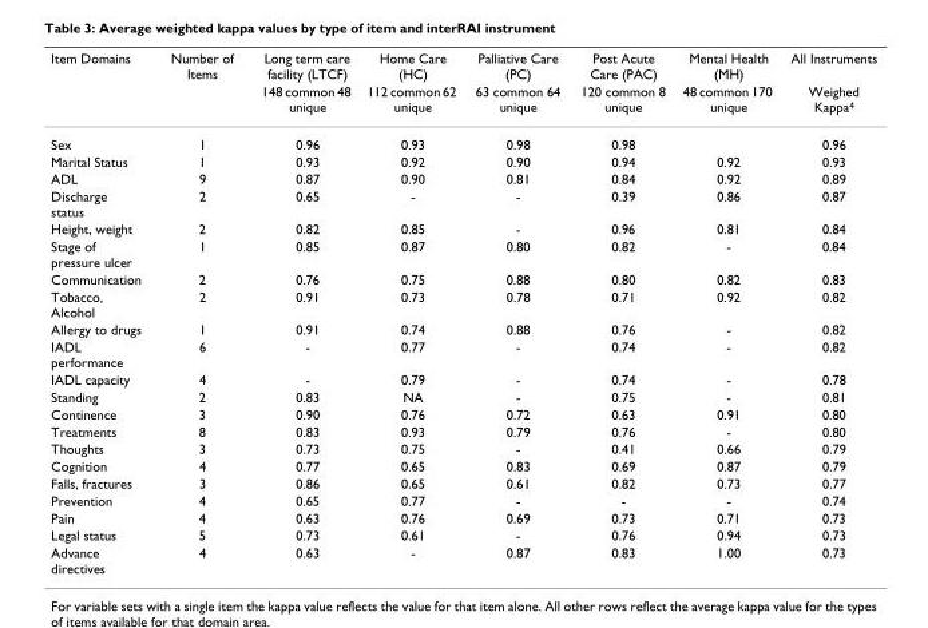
<table><thead><tr><td rowspan="2">Item Domains</td><td rowspan="2">Number of Items</td><td rowspan="2">Long term care facility (LTCF) 148 common 48 unique</td><td rowspan="2">Home Care (HC) 112 common 62 unique</td><td rowspan="2">Palliative Care (PC) 63 common 64 unique</td><td rowspan="2">Post Acute Care (PAC) 120 common 8 unique</td><td rowspan="2">Mental Health (MH) 48 common 170 unique</td><td rowspan="2">All Instruments Weighed Kappa<sup>4</sup></td></tr><tr></tr></thead><tbody><tr><td>Sex</td><td>1</td><td>0.96</td><td>0.93</td><td>0.98</td><td>0.98</td><td></td><td>0.96</td></tr><tr><td>Marital Status</td><td>1</td><td>0.93</td><td>0.92</td><td>0.90</td><td>0.94</td><td>0.92</td><td>0.93</td></tr><tr><td>ADL</td><td>9</td><td>0.87</td><td>0.90</td><td>0.81</td><td>0.84</td><td>0.92</td><td>0.89</td></tr><tr><td>Discharge status</td><td>2</td><td>0.65</td><td>-</td><td>-</td><td>0.39</td><td>0.86</td><td>0.87</td></tr><tr><td>Height, weight</td><td>2</td><td>0.82</td><td>0.85</td><td>-</td><td>0.96</td><td>0.81</td><td>0.84</td></tr><tr><td>Stage of pressure ulcer</td><td>1</td><td>0.85</td><td>0.87</td><td>0.80</td><td>0.82</td><td>-</td><td>0.84</td></tr><tr><td>Communication</td><td>2</td><td>0.76</td><td>0.75</td><td>0.88</td><td>0.80</td><td>0.82</td><td>0.83</td></tr><tr><td>Tobacco, Alcohol</td><td>2</td><td>0.91</td><td>0.73</td><td>0.78</td><td>0.71</td><td>0.92</td><td>0.82</td></tr><tr><td>Allergy to drugs</td><td>1</td><td>0.91</td><td>0.74</td><td>0.88</td><td>0.76</td><td>-</td><td>0.82</td></tr><tr><td>IADL performance</td><td>6</td><td>-</td><td>0.77</td><td>-</td><td>0.74</td><td>-</td><td>0.82</td></tr><tr><td>IADL capacity</td><td>4</td><td>-</td><td>0.79</td><td>-</td><td>0.74</td><td>-</td><td>0.78</td></tr><tr><td>Standing</td><td>2</td><td>0.83</td><td>NA</td><td>-</td><td>0.75</td><td>-</td><td>0.81</td></tr><tr><td>Continence</td><td>3</td><td>0.90</td><td>0.76</td><td>0.72</td><td>0.63</td><td>0.91</td><td>0.80</td></tr><tr><td>Treatments</td><td>8</td><td>0.83</td><td>0.93</td><td>0.79</td><td>0.76</td><td>-</td><td>0.80</td></tr><tr><td>Thoughts</td><td>3</td><td>0.73</td><td>0.75</td><td>-</td><td>0.41</td><td>0.66</td><td>0.79</td></tr><tr><td>Cognition</td><td>4</td><td>0.77</td><td>0.65</td><td>0.83</td><td>0.69</td><td>0.87</td><td>0.79</td></tr><tr><td>Falls, fractures</td><td>3</td><td>0.86</td><td>0.65</td><td>0.61</td><td>0.82</td><td>0.73</td><td>0.77</td></tr><tr><td>Prevention</td><td>4</td><td>0.65</td><td>0.77</td><td>-</td><td>-</td><td>-</td><td>0.74</td></tr><tr><td>Pain</td><td>4</td><td>0.63</td><td>0.76</td><td>0.69</td><td>0.73</td><td>0.71</td><td>0.73</td></tr><tr><td>Legal status</td><td>5</td><td>0.73</td><td>0.61</td><td>-</td><td>0.76</td><td>0.94</td><td>0.73</td></tr><tr><td>Advance directives</td><td>4</td><td>0.63</td><td>-</td><td>0.87</td><td>0.83</td><td>1.00</td><td>0.73</td></tr></tbody></table>